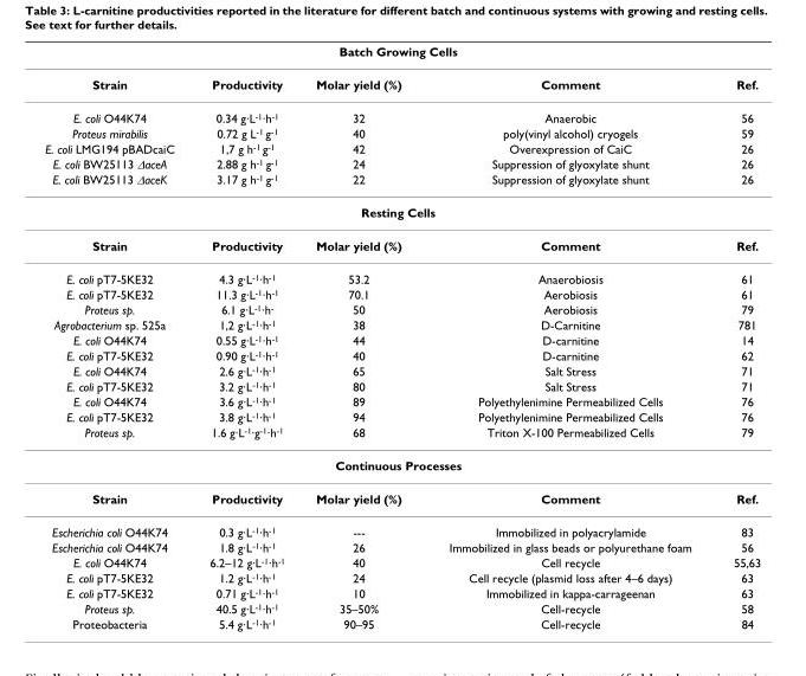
<table><thead><tr><td colspan="5">Batch Growing Cells</td></tr><tr><td>Strain</td><td>Productivity</td><td>Molar yield (%)</td><td>Comment</td><td>Ref.</td></tr></thead><tbody><tr><td>E. coli O44K74</td><td>0.34 g·L<sup>-1</sup>·h<sup>-1</sup></td><td>32</td><td>Anaerobic</td><td>56</td></tr><tr><td>Proteus mirabilis</td><td>0.72 g L<sup>-1</sup> g<sup>-1</sup></td><td>40</td><td>poly(vinyl alcohol) cryogels</td><td>59</td></tr><tr><td>E. coli LMG194 pBADcaiC</td><td>1,7 g h<sup>-1</sup> g<sup>-1</sup></td><td>42</td><td>Overexpression of CaiC</td><td>26</td></tr><tr><td>E. coli BW25113 ∆aceA</td><td>2.88 g h<sup>-1</sup> g<sup>-1</sup></td><td>24</td><td>Suppression of glyoxylate shunt</td><td>26</td></tr><tr><td>E. coli BW25113 ∆aceK</td><td>3.17 g h<sup>-1</sup> g<sup>-1</sup></td><td>22</td><td>Suppression of glyoxylate shunt</td><td>26</td></tr><tr><td colspan="5">Resting Cells</td></tr><tr><td>Strain</td><td>Productivity</td><td>Molar yield (%)</td><td>Comment</td><td>Ref.</td></tr><tr><td>E. coli pT7-5KE32</td><td>4.3 g·L<sup>-1</sup>·h<sup>-1</sup></td><td>53.2</td><td>Anaerobiosis</td><td>61</td></tr><tr><td>E. coli pT7-5KE32</td><td>11.3 g·L<sup>-1</sup>·h<sup>-1</sup></td><td>70.1</td><td>Aerobiosis</td><td>61</td></tr><tr><td>Proteus sp.</td><td>6.1 g·L<sup>-1</sup>·h<sup>-</sup></td><td>50</td><td>Aerobiosis</td><td>79</td></tr><tr><td>Agrobacterium sp. 525a</td><td>1,2 g·L<sup>-1</sup>·h<sup>-1</sup></td><td>38</td><td>D-Carnitine</td><td>781</td></tr><tr><td>E. coli O44K74</td><td>0.55 g·L<sup>-1</sup>·h<sup>-1</sup></td><td>44</td><td>D-carnitine</td><td>14</td></tr><tr><td>E. coli pT7-5KE32</td><td>0.90 g·L<sup>-1</sup>·h<sup>-1</sup></td><td>40</td><td>D-carnitine</td><td>62</td></tr><tr><td>E. coli O44K74</td><td>2.6 g·L<sup>-1</sup>·h<sup>-1</sup></td><td>65</td><td>Salt Stress</td><td>71</td></tr><tr><td>E. coli pT7-5KE32</td><td>3.2 g·L<sup>-1</sup>·h<sup>-1</sup></td><td>80</td><td>Salt Stress</td><td>71</td></tr><tr><td>E. coli O44K74</td><td>3.6 g·L<sup>-1</sup>·h<sup>-1</sup></td><td>89</td><td>Polyethylenimine Permeabilized Cells</td><td>76</td></tr><tr><td>E. coli pT7-5KE32</td><td>3.8 g·L<sup>-1</sup>·h<sup>-1</sup></td><td>94</td><td>Polyethylenimine Permeabilized Cells</td><td>76</td></tr><tr><td>Proteus sp.</td><td>1.6 g·L<sup>-1</sup>·g<sup>-1</sup>·h<sup>-1</sup></td><td>68</td><td>Triton X-100 Permeabilized Cells</td><td>79</td></tr><tr><td colspan="5">Continuous Processes</td></tr><tr><td>Strain</td><td>Productivity</td><td>Molar yield (%)</td><td>Comment</td><td>Ref.</td></tr><tr><td>Escherichia coli O44K74</td><td>0.3 g·L<sup>-1</sup>·h<sup>-1</sup></td><td>---</td><td>Immobilized in polyacrylamide</td><td>83</td></tr><tr><td>Escherichia coli O44K74</td><td>1.8 g·L<sup>-1</sup>·h<sup>-1</sup></td><td>26</td><td>Immobilized in glass beads or polyurethane foam</td><td>56</td></tr><tr><td>E. coli O44K74</td><td>6.2–12 g·L<sup>-1</sup>·h<sup>-1</sup></td><td>40</td><td>Cell recycle</td><td>55,63</td></tr><tr><td>E. coli pT7-5KE32</td><td>1.2 g·L<sup>-1</sup>·h<sup>-1</sup></td><td>24</td><td>Cell recycle (plasmid loss after 4–6 days)</td><td>63</td></tr><tr><td>E. coli pT7-5KE32</td><td>0.71 g·L<sup>-1</sup>·h<sup>-1</sup></td><td>10</td><td>Immobilized in kappa-carrageenan</td><td>63</td></tr><tr><td>Proteus sp.</td><td>40.5 g·L<sup>-1</sup>·h<sup>-1</sup></td><td>35–50%</td><td>Cell-recycle</td><td>58</td></tr><tr><td>Proteobacteria</td><td>5.4 g·L<sup>-1</sup>·h<sup>-1</sup></td><td>90–95</td><td>Cell-recycle</td><td>84</td></tr></tbody></table>